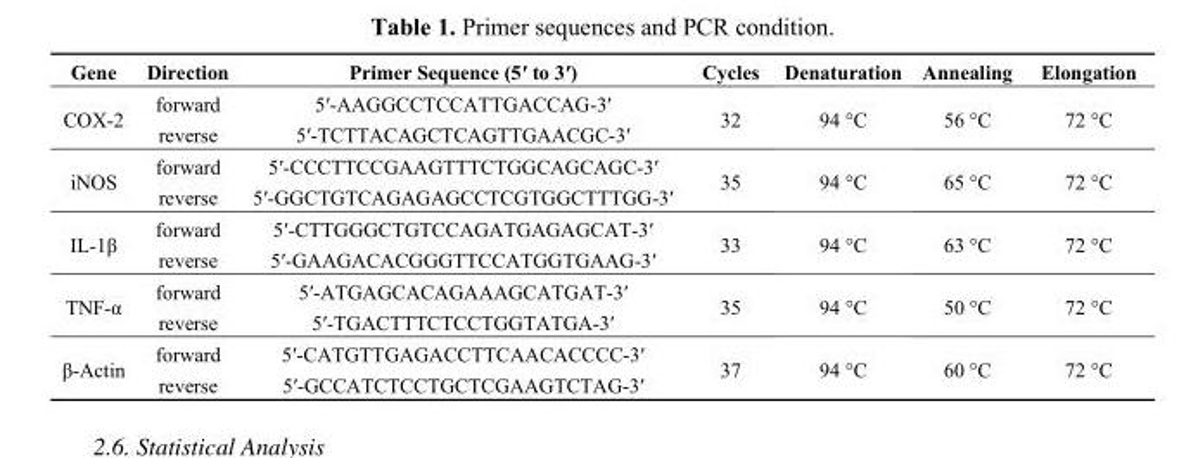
<table><thead><tr><td>Gene</td><td>Direction</td><td>Primer Sequence (5′ to 3′)</td><td>Cycles</td><td>Denaturation</td><td>Annealing</td><td>Elongation</td></tr></thead><tbody><tr><td rowspan="2">COX-2</td><td>forward</td><td>5′-AAGGCCTCCATTGACCAG-3′</td><td rowspan="2">32</td><td rowspan="2">94 °C</td><td rowspan="2">56 °C</td><td rowspan="2">72 °C</td></tr><tr><td>reverse</td><td>5′-TCTTACAGCTCAGTTGAACGC-3′</td></tr><tr><td rowspan="2">iNOS</td><td>forward</td><td>5′-CCCTTCCGAAGTTTCTGGCAGCAGC-3′</td><td rowspan="2">35</td><td rowspan="2">94 °C</td><td rowspan="2">65 °C</td><td rowspan="2">72 °C</td></tr><tr><td>reverse</td><td>5′-GGCTGTCAGAGAGCCTCGTGGCTTTGG-3′</td></tr><tr><td rowspan="2">IL-1β</td><td>forward</td><td>5′-CTTGGGCTGTCCAGATGAGAGCAT-3′</td><td rowspan="2">33</td><td rowspan="2">94 °C</td><td rowspan="2">63 °C</td><td rowspan="2">72 °C</td></tr><tr><td>reverse</td><td>5′-GAAGACACGGGTTCCATGGTGAAG-3′</td></tr><tr><td rowspan="2">TNF-α</td><td>forward</td><td>5′-ATGAGCACAGAAAGCATGAT-3′</td><td rowspan="2">35</td><td rowspan="2">94 °C</td><td rowspan="2">50 °C</td><td rowspan="2">72 °C</td></tr><tr><td>reverse</td><td>5′-TGACTTTCTCCTGGTATGA-3′</td></tr><tr><td rowspan="2">β-Actin</td><td>forward</td><td>5′-CATGTTGAGACCTTCAACACCCC-3′</td><td rowspan="2">37</td><td rowspan="2">94 °C</td><td rowspan="2">60 °C</td><td rowspan="2">72 °C</td></tr><tr><td>reverse</td><td>5′-GCCATCTCCTGCTCGAAGTCTAG-3′</td></tr></tbody></table>